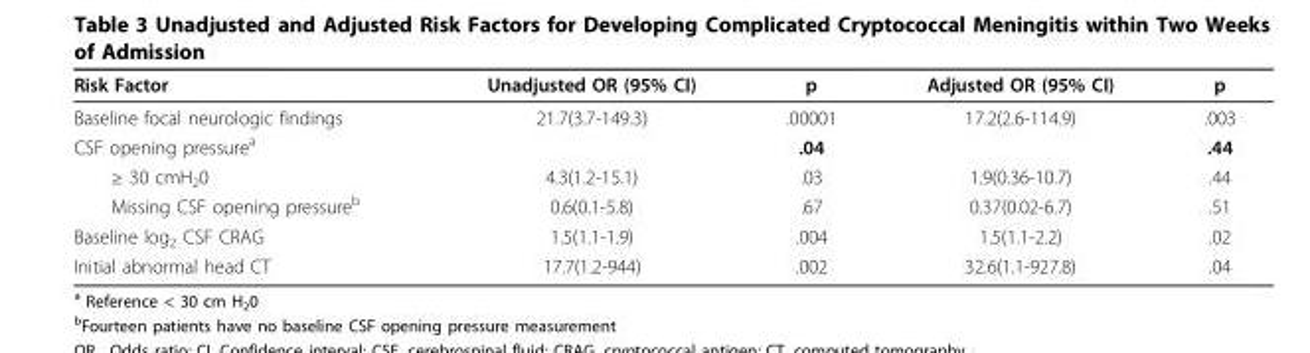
<table><thead><tr><td>Risk Factor</td><td>Unadjusted OR (95% CI)</td><td>p</td><td>Adjusted OR (95% CI)</td><td>p</td></tr></thead><tbody><tr><td>Baseline focal neurologic findings</td><td>21.7(3.7-149.3)</td><td>.00001</td><td>17.2(2.6-114.9)</td><td>.003</td></tr><tr><td>CSF opening pressure<sup>a</sup></td><td></td><td>.04</td><td></td><td>.44</td></tr><tr><td>≥ 30 cmH<sub>2</sub>0</td><td>4.3(1.2-15.1)</td><td>.03</td><td>1.9(0.36-10.7)</td><td>.44</td></tr><tr><td>Missing CSF opening pressure<sup>b</sup></td><td>0.6(0.1-5.8)</td><td>.67</td><td>0.37(0.02-6.7)</td><td>.51</td></tr><tr><td>Baseline log<sub>2</sub> CSF CRAG</td><td>1.5(1.1-1.9)</td><td>.004</td><td>1.5(1.1-2.2)</td><td>.02</td></tr><tr><td>Initial abnormal head CT</td><td>17.7(1.2-944)</td><td>.002</td><td>32.6(1.1-927.8)</td><td>.04</td></tr></tbody></table>